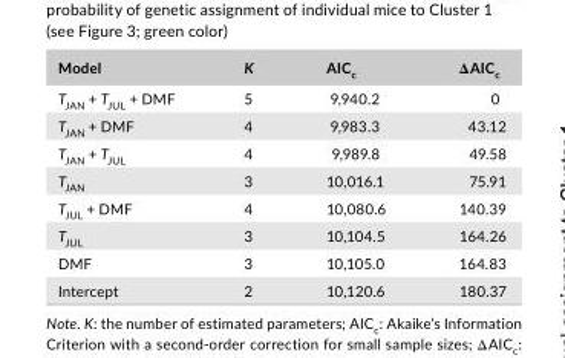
<table><thead><tr><td>Model</td><td>K</td><td>AIC<sub>c</sub></td><td>ΔAIC<sub>c</sub></td></tr></thead><tbody><tr><td>T<sub>JAN</sub> + T<sub>JUL</sub> + DMF</td><td>5</td><td>9,940.2</td><td>0</td></tr><tr><td>T<sub>JAN</sub> + DMF</td><td>4</td><td>9,983.3</td><td>43.12</td></tr><tr><td>T<sub>JAN</sub> + T<sub>JUL</sub></td><td>4</td><td>9,989.8</td><td>49.58</td></tr><tr><td>T<sub>JAN</sub></td><td>3</td><td>10,016.1</td><td>75.91</td></tr><tr><td>T<sub>JUL</sub> + DMF</td><td>4</td><td>10,080.6</td><td>140.39</td></tr><tr><td>T<sub>JUL</sub></td><td>3</td><td>10,104.5</td><td>164.26</td></tr><tr><td>DMF</td><td>3</td><td>10,105.0</td><td>164.83</td></tr><tr><td>Intercept</td><td>2</td><td>10,120.6</td><td>180.37</td></tr></tbody></table>